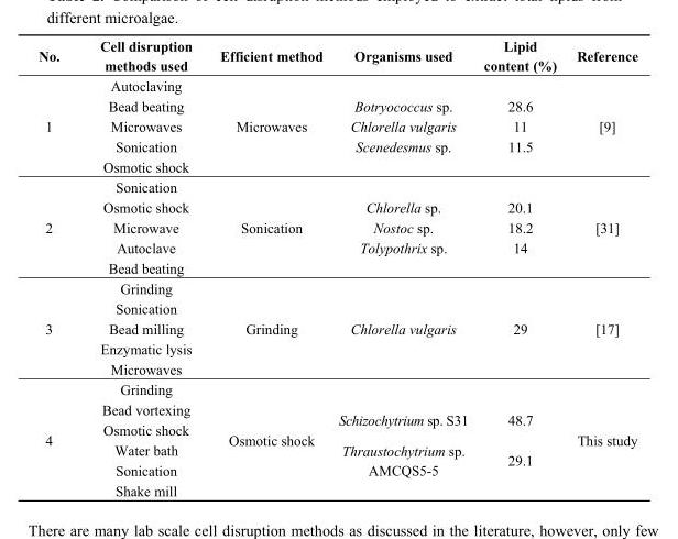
<table><thead><tr><td>No.</td><td>Cell disruption methods used</td><td>Efficient method</td><td>Organisms used</td><td>Lipid content (%)</td><td>Reference</td></tr></thead><tbody><tr><td rowspan="5">1</td><td>Autoclaving</td><td rowspan="5">Microwaves</td><td></td><td></td><td rowspan="5">[9]</td></tr><tr><td>Bead beating</td><td>Botryococcus sp.</td><td>28.6</td></tr><tr><td>Microwaves</td><td>Chlorella vulgaris</td><td>11</td></tr><tr><td>Sonication</td><td>Scenedesmus sp.</td><td>11.5</td></tr><tr><td>Osmotic shock</td><td></td><td></td></tr><tr><td rowspan="5">2</td><td>Sonication</td><td rowspan="5">Sonication</td><td></td><td></td><td rowspan="5">[31]</td></tr><tr><td>Osmotic shock</td><td>Chlorella sp.</td><td>20.1</td></tr><tr><td>Microwave</td><td>Nostoc sp.</td><td>18.2</td></tr><tr><td>Autoclave</td><td>Tolypothrix sp.</td><td>14</td></tr><tr><td>Bead beating</td><td></td><td></td></tr><tr><td rowspan="5">3</td><td>Grinding</td><td rowspan="5">Grinding</td><td rowspan="5">Chlorella vulgaris</td><td rowspan="5">29</td><td rowspan="5">[17]</td></tr><tr><td>Sonication</td></tr><tr><td>Bead milling</td></tr><tr><td>Enzymatic lysis</td></tr><tr><td>Microwaves</td></tr><tr><td rowspan="6">4</td><td>Grinding</td><td rowspan="6">Osmotic shock</td><td></td><td></td><td rowspan="6">This study</td></tr><tr><td>Bead vortexing</td><td rowspan="2">Schizochytrium sp. S31</td><td rowspan="2">48.7</td></tr><tr><td>Osmotic shock</td></tr><tr><td>Water bath</td><td rowspan="2">Thraustochytrium sp. AMCQS5-5</td><td rowspan="2">29.1</td></tr><tr><td>Sonication</td></tr><tr><td>Shake mill</td><td></td><td></td></tr></tbody></table>